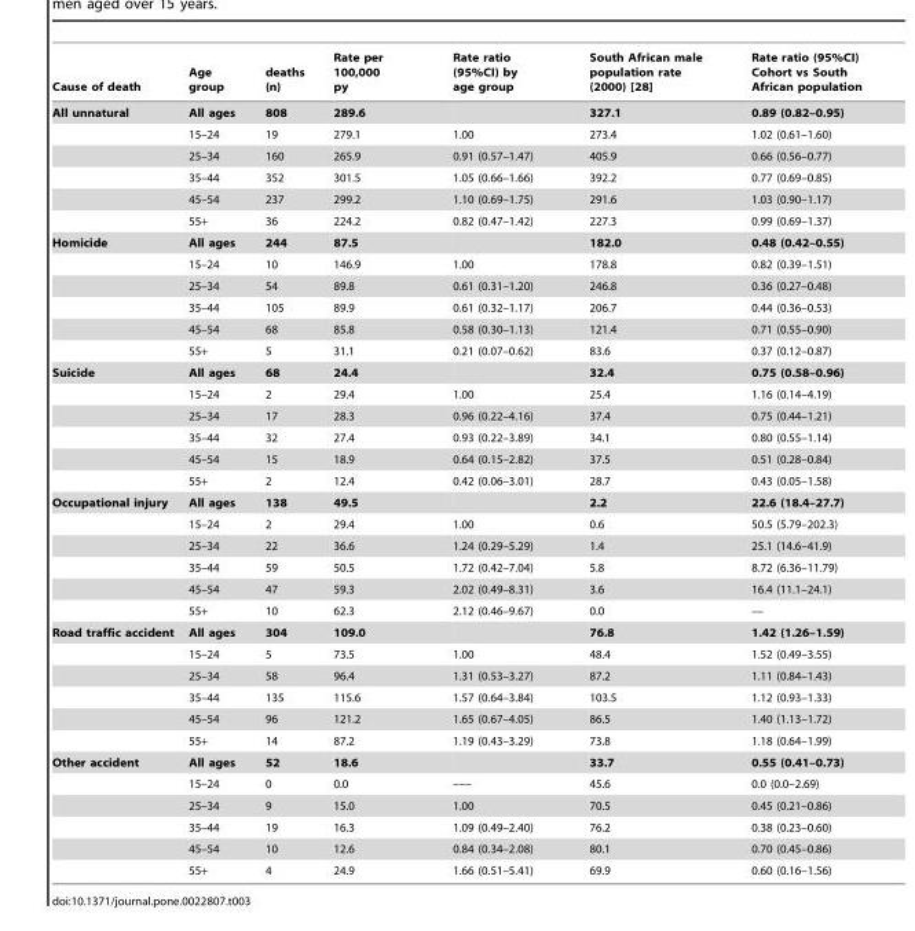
<table><thead><tr><td>Cause of death</td><td>Age group</td><td>deaths (n)</td><td>Rate per 100,000 py</td><td>Rate ratio (95%CI) by age group</td><td>South African male population rate (2000) [28]</td><td>Rate ratio (95%CI) Cohort vs South African population</td></tr></thead><tbody><tr><td rowspan="6">All unnatural</td><td>All ages</td><td>808</td><td>289.6</td><td></td><td>327.1</td><td>0.89 (0.82–0.95)</td></tr><tr><td>15–24</td><td>19</td><td>279.1</td><td>1.00</td><td>273.4</td><td>1.02 (0.61–1.60)</td></tr><tr><td>25–34</td><td>160</td><td>265.9</td><td>0.91 (0.57–1.47)</td><td>405.9</td><td>0.66 (0.56–0.77)</td></tr><tr><td>35–44</td><td>352</td><td>301.5</td><td>1.05 (0.66–1.66)</td><td>392.2</td><td>0.77 (0.69–0.85)</td></tr><tr><td>45–54</td><td>237</td><td>299.2</td><td>1.10 (0.69–1.75)</td><td>291.6</td><td>1.03 (0.90–1.17)</td></tr><tr><td>55+</td><td>36</td><td>224.2</td><td>0.82 (0.47–1.42)</td><td>227.3</td><td>0.99 (0.69–1.37)</td></tr><tr><td rowspan="6">Homicide</td><td>All ages</td><td>244</td><td>87.5</td><td></td><td>182.0</td><td>0.48 (0.42–0.55)</td></tr><tr><td>15–24</td><td>10</td><td>146.9</td><td>1.00</td><td>178.8</td><td>0.82 (0.39–1.51)</td></tr><tr><td>25–34</td><td>54</td><td>89.8</td><td>0.61 (0.31–1.20)</td><td>246.8</td><td>0.36 (0.27–0.48)</td></tr><tr><td>35–44</td><td>105</td><td>89.9</td><td>0.61 (0.32–1.17)</td><td>206.7</td><td>0.44 (0.36–0.53)</td></tr><tr><td>45–54</td><td>68</td><td>85.8</td><td>0.58 (0.30–1.13)</td><td>121.4</td><td>0.71 (0.55–0.90)</td></tr><tr><td>55+</td><td>5</td><td>31.1</td><td>0.21 (0.07–0.62)</td><td>83.6</td><td>0.37 (0.12–0.87)</td></tr><tr><td rowspan="6">Suicide</td><td>All ages</td><td>68</td><td>24.4</td><td></td><td>32.4</td><td>0.75 (0.58–0.96)</td></tr><tr><td>15–24</td><td>2</td><td>29.4</td><td>1.00</td><td>25.4</td><td>1.16 (0.14–4.19)</td></tr><tr><td>25–34</td><td>17</td><td>28.3</td><td>0.96 (0.22–4.16)</td><td>37.4</td><td>0.75 (0.44–1.21)</td></tr><tr><td>35–44</td><td>32</td><td>27.4</td><td>0.93 (0.22–3.89)</td><td>34.1</td><td>0.80 (0.55–1.14)</td></tr><tr><td>45–54</td><td>15</td><td>18.9</td><td>0.64 (0.15–2.82)</td><td>37.5</td><td>0.51 (0.28–0.84)</td></tr><tr><td>55+</td><td>2</td><td>12.4</td><td>0.42 (0.06–3.01)</td><td>28.7</td><td>0.43 (0.05–1.58)</td></tr><tr><td rowspan="6">Occupational injury</td><td>All ages</td><td>138</td><td>49.5</td><td></td><td>2.2</td><td>22.6 (18.4–27.7)</td></tr><tr><td>15–24</td><td>2</td><td>29.4</td><td>1.00</td><td>0.6</td><td>50.5 (5.79–202.3)</td></tr><tr><td>25–34</td><td>22</td><td>36.6</td><td>1.24 (0.29–5.29)</td><td>1.4</td><td>25.1 (14.6–41.9)</td></tr><tr><td>35–44</td><td>59</td><td>50.5</td><td>1.72 (0.42–7.04)</td><td>5.8</td><td>8.72 (6.36–11.79)</td></tr><tr><td>45–54</td><td>47</td><td>59.3</td><td>2.02 (0.49–8.31)</td><td>3.6</td><td>16.4 (11.1–24.1)</td></tr><tr><td>55+</td><td>10</td><td>62.3</td><td>2.12 (0.46–9.67)</td><td>0.0</td><td>––</td></tr><tr><td rowspan="6">Road traffic accident</td><td>All ages</td><td>304</td><td>109.0</td><td></td><td>76.8</td><td>1.42 (1.26–1.59)</td></tr><tr><td>15–24</td><td>5</td><td>73.5</td><td>1.00</td><td>48.4</td><td>1.52 (0.49–3.55)</td></tr><tr><td>25–34</td><td>58</td><td>96.4</td><td>1.31 (0.53–3.27)</td><td>87.2</td><td>1.11 (0.84–1.43)</td></tr><tr><td>35–44</td><td>135</td><td>115.6</td><td>1.57 (0.64–3.84)</td><td>103.5</td><td>1.12 (0.93–1.33)</td></tr><tr><td>45–54</td><td>96</td><td>121.2</td><td>1.65 (0.67–4.05)</td><td>86.5</td><td>1.40 (1.13–1.72)</td></tr><tr><td>55+</td><td>14</td><td>87.2</td><td>1.19 (0.43–3.29)</td><td>73.8</td><td>1.18 (0.64–1.99)</td></tr><tr><td rowspan="6">Other accident</td><td>All ages</td><td>52</td><td>18.6</td><td></td><td>33.7</td><td>0.55 (0.41–0.73)</td></tr><tr><td>15–24</td><td>0</td><td>0.0</td><td>–––</td><td>45.6</td><td>0.0 (0.0–2.69)</td></tr><tr><td>25–34</td><td>9</td><td>15.0</td><td>1.00</td><td>70.5</td><td>0.45 (0.21–0.86)</td></tr><tr><td>35–44</td><td>19</td><td>16.3</td><td>1.09 (0.49–2.40)</td><td>76.2</td><td>0.38 (0.23–0.60)</td></tr><tr><td>45–54</td><td>10</td><td>12.6</td><td>0.84 (0.34–2.08)</td><td>80.1</td><td>0.70 (0.45–0.86)</td></tr><tr><td>55+</td><td>4</td><td>24.9</td><td>1.66 (0.51–5.41)</td><td>69.9</td><td>0.60 (0.16–1.56)</td></tr></tbody></table>